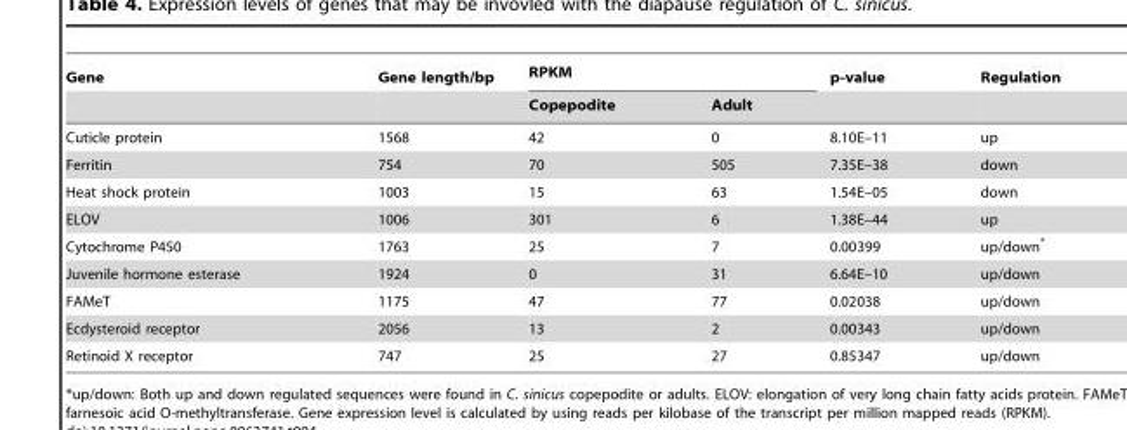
<table><thead><tr><td rowspan="2">Gene</td><td rowspan="2">Gene length/bp</td><td colspan="2">RPKM</td><td rowspan="2">p-value</td><td rowspan="2">Regulation</td></tr><tr><td>Copepodite</td><td>Adult</td></tr></thead><tbody><tr><td>Cuticle protein</td><td>1568</td><td>42</td><td>0</td><td>8.10E–11</td><td>up</td></tr><tr><td>Ferritin</td><td>754</td><td>70</td><td>505</td><td>7.35E–38</td><td>down</td></tr><tr><td>Heat shock protein</td><td>1003</td><td>15</td><td>63</td><td>1.54E–05</td><td>down</td></tr><tr><td>ELOV</td><td>1006</td><td>301</td><td>6</td><td>1.38E–44</td><td>up</td></tr><tr><td>Cytochrome P450</td><td>1763</td><td>25</td><td>7</td><td>0.00399</td><td>up/down*</td></tr><tr><td>Juvenile hormone esterase</td><td>1924</td><td>0</td><td>31</td><td>6.64E–10</td><td>up/down</td></tr><tr><td>FAMeT</td><td>1175</td><td>47</td><td>77</td><td>0.02038</td><td>up/down</td></tr><tr><td>Ecdysteroid receptor</td><td>2056</td><td>13</td><td>2</td><td>0.00343</td><td>up/down</td></tr><tr><td>Retinoid X receptor</td><td>747</td><td>25</td><td>27</td><td>0.85347</td><td>up/down</td></tr></tbody></table>